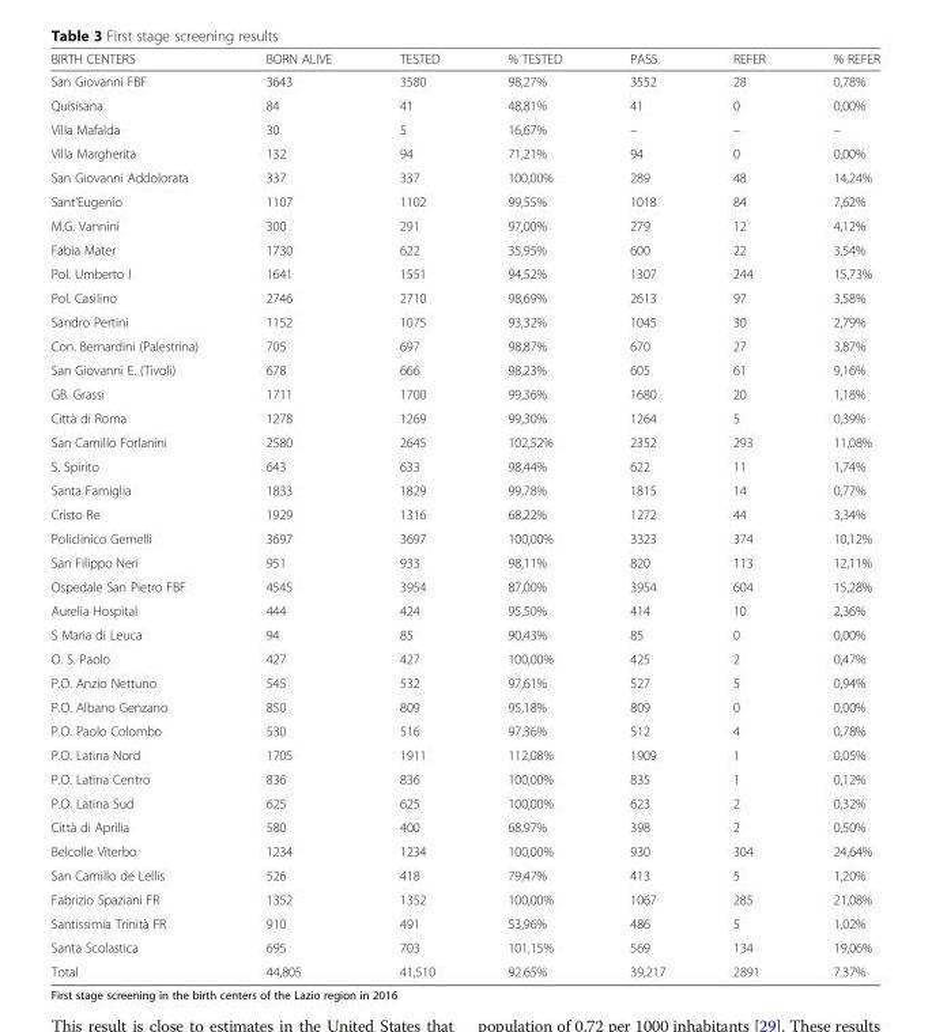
<table><thead><tr><td>BIRTH CENTERS</td><td>BORN ALIVE</td><td>TESTED</td><td>% TESTED</td><td>PASS</td><td>REFER</td><td>% REFER</td></tr></thead><tbody><tr><td>San Giovanni FBF</td><td>3643</td><td>3580</td><td>98,27%</td><td>3552</td><td>28</td><td>0,78%</td></tr><tr><td>Quisisana</td><td>84</td><td>41</td><td>48,81%</td><td>41</td><td>0</td><td>0,00%</td></tr><tr><td>Villa Mafalda</td><td>30</td><td>5</td><td>16,67%</td><td>–</td><td>–</td><td>–</td></tr><tr><td>Villa Margherita</td><td>132</td><td>94</td><td>71,21%</td><td>94</td><td>0</td><td>0,00%</td></tr><tr><td>San Giovanni Addolorata</td><td>337</td><td>337</td><td>100,00%</td><td>289</td><td>48</td><td>14,24%</td></tr><tr><td>Sant’Eugenio</td><td>1107</td><td>1102</td><td>99,55%</td><td>1018</td><td>84</td><td>7,62%</td></tr><tr><td>M.G. Vannini</td><td>300</td><td>291</td><td>97,00%</td><td>279</td><td>12</td><td>4,12%</td></tr><tr><td>Fabia Mater</td><td>1730</td><td>622</td><td>35,95%</td><td>600</td><td>22</td><td>3,54%</td></tr><tr><td>Pol. Umberto I</td><td>1641</td><td>1551</td><td>94,52%</td><td>1307</td><td>244</td><td>15,73%</td></tr><tr><td>Pol. Casilino</td><td>2746</td><td>2710</td><td>98,69%</td><td>2613</td><td>97</td><td>3,58%</td></tr><tr><td>Sandro Pertini</td><td>1152</td><td>1075</td><td>93,32%</td><td>1045</td><td>30</td><td>2,79%</td></tr><tr><td>Con. Bernardini (Palestrina)</td><td>705</td><td>697</td><td>98,87%</td><td>670</td><td>27</td><td>3,87%</td></tr><tr><td>San Giovanni E. (Tivoli)</td><td>678</td><td>666</td><td>98,23%</td><td>605</td><td>61</td><td>9,16%</td></tr><tr><td>GB. Grassi</td><td>1711</td><td>1700</td><td>99,36%</td><td>1680</td><td>20</td><td>1,18%</td></tr><tr><td>Città di Roma</td><td>1278</td><td>1269</td><td>99,30%</td><td>1264</td><td>5</td><td>0,39%</td></tr><tr><td>San Camillo Forlanini</td><td>2580</td><td>2645</td><td>102,52%</td><td>2352</td><td>293</td><td>11,08%</td></tr><tr><td>S. Spirito</td><td>643</td><td>633</td><td>98,44%</td><td>622</td><td>11</td><td>1,74%</td></tr><tr><td>Santa Famiglia</td><td>1833</td><td>1829</td><td>99,78%</td><td>1815</td><td>14</td><td>0,77%</td></tr><tr><td>Cristo Re</td><td>1929</td><td>1316</td><td>68,22%</td><td>1272</td><td>44</td><td>3,34%</td></tr><tr><td>Policlinico Gemelli</td><td>3697</td><td>3697</td><td>100,00%</td><td>3323</td><td>374</td><td>10,12%</td></tr><tr><td>San Filippo Neri</td><td>951</td><td>933</td><td>98,11%</td><td>820</td><td>113</td><td>12,11%</td></tr><tr><td>Ospedale San Pietro FBF</td><td>4545</td><td>3954</td><td>87,00%</td><td>3954</td><td>604</td><td>15,28%</td></tr><tr><td>Aurelia Hospital</td><td>444</td><td>424</td><td>95,50%</td><td>414</td><td>10</td><td>2,36%</td></tr><tr><td>S Maria di Leuca</td><td>94</td><td>85</td><td>90,43%</td><td>85</td><td>0</td><td>0,00%</td></tr><tr><td>O. S. Paolo</td><td>427</td><td>427</td><td>100,00%</td><td>425</td><td>2</td><td>0,47%</td></tr><tr><td>P.O. Anzio Nettuno</td><td>545</td><td>532</td><td>97,61%</td><td>527</td><td>5</td><td>0,94%</td></tr><tr><td>P.O. Albano Genzano</td><td>850</td><td>809</td><td>95,18%</td><td>809</td><td>0</td><td>0,00%</td></tr><tr><td>P.O. Paolo Colombo</td><td>530</td><td>516</td><td>97,36%</td><td>512</td><td>4</td><td>0,78%</td></tr><tr><td>P.O. Latina Nord</td><td>1705</td><td>1911</td><td>112,08%</td><td>1909</td><td>1</td><td>0,05%</td></tr><tr><td>P.O. Latina Centro</td><td>836</td><td>836</td><td>100,00%</td><td>835</td><td>1</td><td>0,12%</td></tr><tr><td>P.O. Latina Sud</td><td>625</td><td>625</td><td>100,00%</td><td>623</td><td>2</td><td>0,32%</td></tr><tr><td>Città di Aprilia</td><td>580</td><td>400</td><td>68,97%</td><td>398</td><td>2</td><td>0,50%</td></tr><tr><td>Belcolle Viterbo</td><td>1234</td><td>1234</td><td>100,00%</td><td>930</td><td>304</td><td>24,64%</td></tr><tr><td>San Camillo de Lellis</td><td>526</td><td>418</td><td>79,47%</td><td>413</td><td>5</td><td>1,20%</td></tr><tr><td>Fabrizio Spaziani FR</td><td>1352</td><td>1352</td><td>100,00%</td><td>1067</td><td>285</td><td>21,08%</td></tr><tr><td>Santissimia Trinità FR</td><td>910</td><td>491</td><td>53,96%</td><td>486</td><td>5</td><td>1,02%</td></tr><tr><td>Santa Scolastica</td><td>695</td><td>703</td><td>101,15%</td><td>569</td><td>134</td><td>19,06%</td></tr><tr><td>Total</td><td>44,805</td><td>41,510</td><td>92.65%</td><td>39,217</td><td>2891</td><td>7.37%</td></tr></tbody></table>